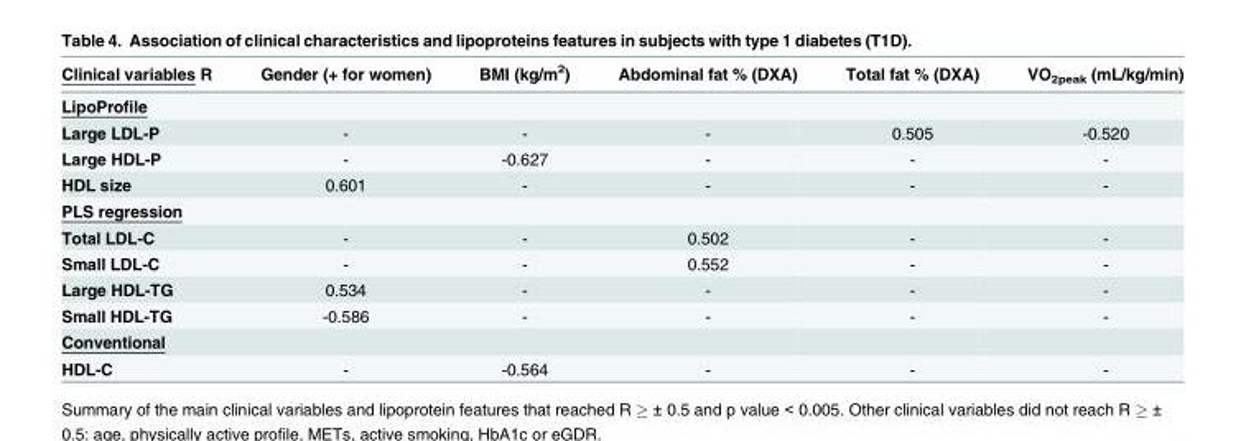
<table><thead><tr><td>Clinical variables R</td><td>Gender (+ for women)</td><td>BMI (kg/m<sup>2</sup>)</td><td>Abdominal fat % (DXA)</td><td>Total fat % (DXA)</td><td>VO<sub>2peak</sub> (mL/kg/min)</td></tr></thead><tbody><tr><td colspan="6">LipoProfile</td></tr><tr><td>Large LDL-P</td><td>-</td><td>-</td><td>-</td><td>0.505</td><td>-0.520</td></tr><tr><td>Large HDL-P</td><td>-</td><td>-0.627</td><td>-</td><td>-</td><td>-</td></tr><tr><td>HDL size</td><td>0.601</td><td>-</td><td>-</td><td>-</td><td>-</td></tr><tr><td colspan="6">PLS regression</td></tr><tr><td>Total LDL-C</td><td>-</td><td>-</td><td>0.502</td><td>-</td><td>-</td></tr><tr><td>Small LDL-C</td><td>-</td><td>-</td><td>0.552</td><td>-</td><td>-</td></tr><tr><td>Large HDL-TG</td><td>0.534</td><td>-</td><td>-</td><td>-</td><td>-</td></tr><tr><td>Small HDL-TG</td><td>-0.586</td><td>-</td><td>-</td><td>-</td><td>-</td></tr><tr><td colspan="6">Conventional</td></tr><tr><td>HDL-C</td><td>-</td><td>-0.564</td><td>-</td><td>-</td><td>-</td></tr></tbody></table>